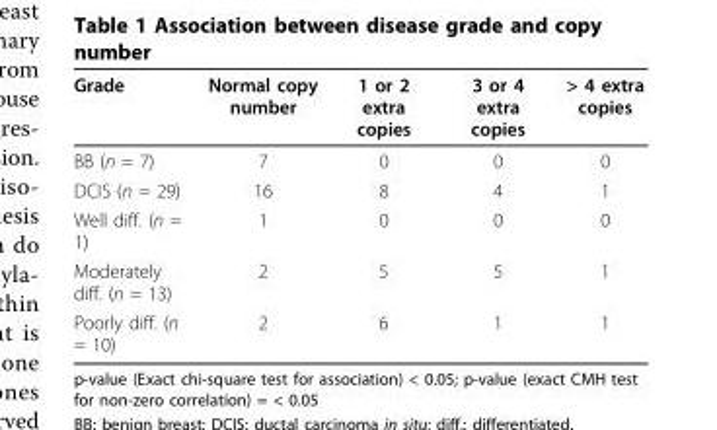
<table><thead><tr><td>Grade</td><td>Normal copy number</td><td>1 or 2 extra copies</td><td>3 or 4 extra copies</td><td>&gt; 4 extra copies</td></tr></thead><tbody><tr><td>BB (n = 7)</td><td>7</td><td>0</td><td>0</td><td>0</td></tr><tr><td>DCIS (n = 29)</td><td>16</td><td>8</td><td>4</td><td>1</td></tr><tr><td>Well diff. (n = 1)</td><td>1</td><td>0</td><td>0</td><td>0</td></tr><tr><td>Moderately diff. (n = 13)</td><td>2</td><td>5</td><td>5</td><td>1</td></tr><tr><td>Poorly diff. (n = 10)</td><td>2</td><td>6</td><td>1</td><td>1</td></tr></tbody></table>